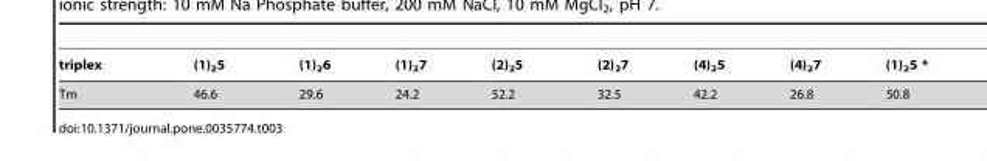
<table><thead><tr><td>triplex</td><td>(1)<sub>2</sub>5</td><td>(1)<sub>2</sub>6</td><td>(1)<sub>2</sub>7</td><td>(2)<sub>2</sub>5</td><td>(2)<sub>2</sub>7</td><td>(4)<sub>2</sub>5</td><td>(4)<sub>2</sub>7</td><td>(1)<sub>2</sub>5 *</td></tr></thead><tbody><tr><td>Tm</td><td>46.6</td><td>29.6</td><td>24.2</td><td>52.2</td><td>32.5</td><td>42.2</td><td>26.8</td><td>50.8</td></tr></tbody></table>